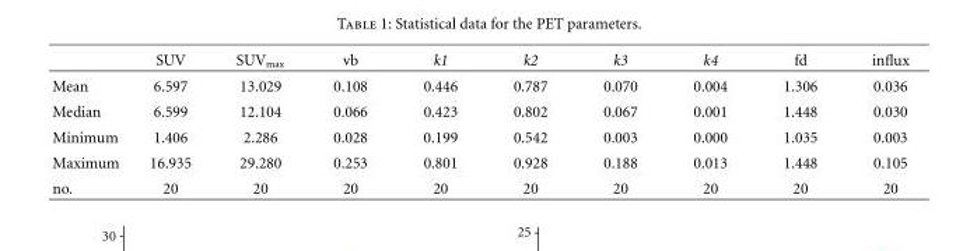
<table><thead><tr><td></td><td>SUV</td><td>SUV<sub>max</sub></td><td>vb</td><td>k1</td><td>k2</td><td>k3</td><td>k4</td><td>fd</td><td>influx</td></tr></thead><tbody><tr><td>Mean</td><td>6.597</td><td>13.029</td><td>0.108</td><td>0.446</td><td>0.787</td><td>0.070</td><td>0.004</td><td>1.306</td><td>0.036</td></tr><tr><td>Median</td><td>6.599</td><td>12.104</td><td>0.066</td><td>0.423</td><td>0.802</td><td>0.067</td><td>0.001</td><td>1.448</td><td>0.030</td></tr><tr><td>Minimum</td><td>1.406</td><td>2.286</td><td>0.028</td><td>0.199</td><td>0.542</td><td>0.003</td><td>0.000</td><td>1.035</td><td>0.003</td></tr><tr><td>Maximum</td><td>16.935</td><td>29.280</td><td>0.253</td><td>0.801</td><td>0.928</td><td>0.188</td><td>0.013</td><td>1.448</td><td>0.105</td></tr><tr><td>no.</td><td>20</td><td>20</td><td>20</td><td>20</td><td>20</td><td>20</td><td>20</td><td>20</td><td>20</td></tr></tbody></table>